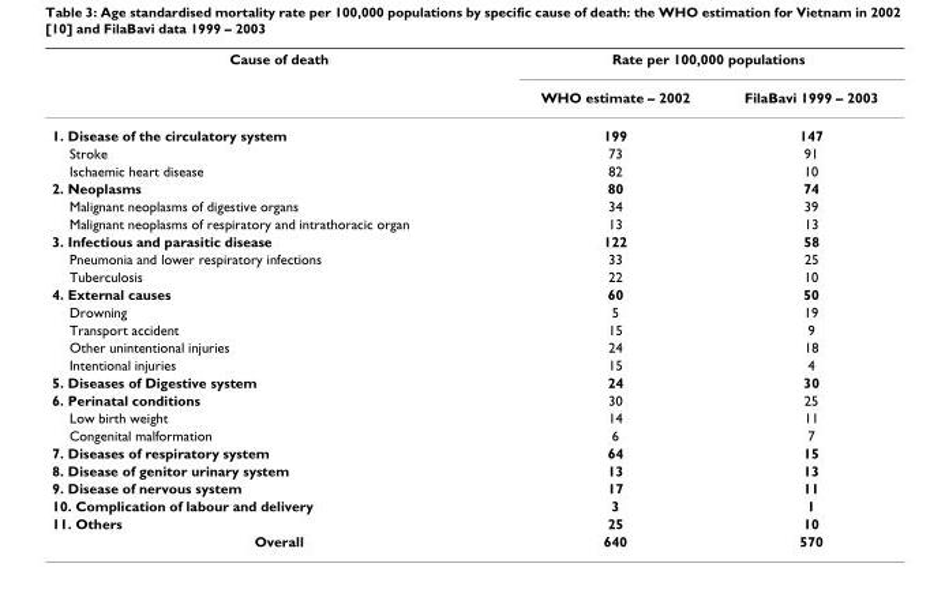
<table><thead><tr><td rowspan="2">Cause of death</td><td colspan="2">Rate per 100,000 populations</td></tr><tr><td>WHO estimate – 2002</td><td>FilaBavi 1999 – 2003</td></tr></thead><tbody><tr><td>1. Disease of the circulatory system</td><td>199</td><td>147</td></tr><tr><td>Stroke</td><td>73</td><td>91</td></tr><tr><td>Ischaemic heart disease</td><td>82</td><td>10</td></tr><tr><td>2. Neoplasms</td><td>80</td><td>74</td></tr><tr><td>Malignant neoplasms of digestive organs</td><td>34</td><td>39</td></tr><tr><td>Malignant neoplasms of respiratory and intrathoracic organ</td><td>13</td><td>13</td></tr><tr><td>3. Infectious and parasitic disease</td><td>122</td><td>58</td></tr><tr><td>Pneumonia and lower respiratory infections</td><td>33</td><td>25</td></tr><tr><td>Tuberculosis</td><td>22</td><td>10</td></tr><tr><td>4. External causes</td><td>60</td><td>50</td></tr><tr><td>Drowning</td><td>5</td><td>19</td></tr><tr><td>Transport accident</td><td>15</td><td>9</td></tr><tr><td>Other unintentional injuries</td><td>24</td><td>18</td></tr><tr><td>Intentional injuries</td><td>15</td><td>4</td></tr><tr><td>5. Diseases of Digestive system</td><td>24</td><td>30</td></tr><tr><td>6. Perinatal conditions</td><td>30</td><td>25</td></tr><tr><td>Low birth weight</td><td>14</td><td>11</td></tr><tr><td>Congenital malformation</td><td>6</td><td>7</td></tr><tr><td>7. Diseases of respiratory system</td><td>64</td><td>15</td></tr><tr><td>8. Disease of genitor urinary system</td><td>13</td><td>13</td></tr><tr><td>9. Disease of nervous system</td><td>17</td><td>11</td></tr><tr><td>10. Complication of labour and delivery</td><td>3</td><td>1</td></tr><tr><td>11. Others</td><td>25</td><td>10</td></tr><tr><td>Overall</td><td>640</td><td>570</td></tr></tbody></table>